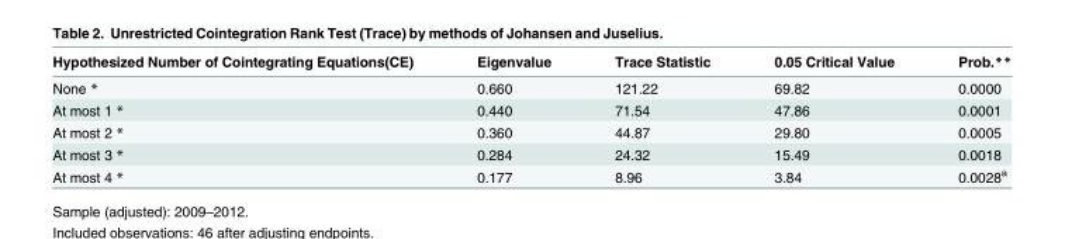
<table><thead><tr><td>Hypothesized Number of Cointegrating Equations(CE)</td><td>Eigenvalue</td><td>Trace Statistic</td><td>0.05 Critical Value</td><td>Prob.**</td></tr></thead><tbody><tr><td>None *</td><td>0.660</td><td>121.22</td><td>69.82</td><td>0.0000</td></tr><tr><td>At most 1 *</td><td>0.440</td><td>71.54</td><td>47.86</td><td>0.0001</td></tr><tr><td>At most 2 *</td><td>0.360</td><td>44.87</td><td>29.80</td><td>0.0005</td></tr><tr><td>At most 3 *</td><td>0.284</td><td>24.32</td><td>15.49</td><td>0.0018</td></tr><tr><td>At most 4 *</td><td>0.177</td><td>8.96</td><td>3.84</td><td>0.0028<sup>a</sup></td></tr></tbody></table>